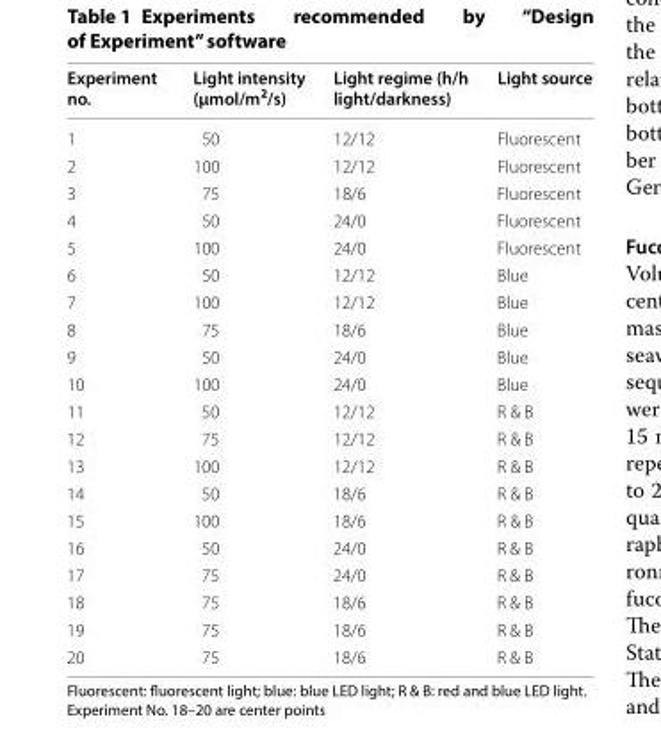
<table><thead><tr><td>Experiment no.</td><td>Light intensity (μmol/m<sup>2</sup>/s)</td><td>Light regime (h/h light/darkness)</td><td>Light source</td></tr></thead><tbody><tr><td>1</td><td>50</td><td>12/12</td><td>Fluorescent</td></tr><tr><td>2</td><td>100</td><td>12/12</td><td>Fluorescent</td></tr><tr><td>3</td><td>75</td><td>18/6</td><td>Fluorescent</td></tr><tr><td>4</td><td>50</td><td>24/0</td><td>Fluorescent</td></tr><tr><td>5</td><td>100</td><td>24/0</td><td>Fluorescent</td></tr><tr><td>6</td><td>50</td><td>12/12</td><td>Blue</td></tr><tr><td>7</td><td>100</td><td>12/12</td><td>Blue</td></tr><tr><td>8</td><td>75</td><td>18/6</td><td>Blue</td></tr><tr><td>9</td><td>50</td><td>24/0</td><td>Blue</td></tr><tr><td>10</td><td>100</td><td>24/0</td><td>Blue</td></tr><tr><td>11</td><td>50</td><td>12/12</td><td>R &amp; B</td></tr><tr><td>12</td><td>75</td><td>12/12</td><td>R &amp; B</td></tr><tr><td>13</td><td>100</td><td>12/12</td><td>R &amp; B</td></tr><tr><td>14</td><td>50</td><td>18/6</td><td>R &amp; B</td></tr><tr><td>15</td><td>100</td><td>18/6</td><td>R &amp; B</td></tr><tr><td>16</td><td>50</td><td>24/0</td><td>R &amp; B</td></tr><tr><td>17</td><td>75</td><td>24/0</td><td>R &amp; B</td></tr><tr><td>18</td><td>75</td><td>18/6</td><td>R &amp; B</td></tr><tr><td>19</td><td>75</td><td>18/6</td><td>R &amp; B</td></tr><tr><td>20</td><td>75</td><td>18/6</td><td>R &amp; B</td></tr></tbody></table>